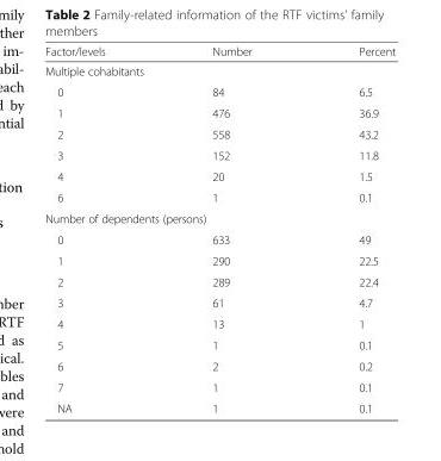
<table><thead><tr><td>Factor/levels</td><td>Number</td><td>Percent</td></tr></thead><tbody><tr><td colspan="3">Multiple cohabitants</td></tr><tr><td>0</td><td>84</td><td>6.5</td></tr><tr><td>1</td><td>476</td><td>36.9</td></tr><tr><td>2</td><td>558</td><td>43.2</td></tr><tr><td>3</td><td>152</td><td>11.8</td></tr><tr><td>4</td><td>20</td><td>1.5</td></tr><tr><td>6</td><td>1</td><td>0.1</td></tr><tr><td colspan="3">Number of dependents (persons)</td></tr><tr><td>0</td><td>633</td><td>49</td></tr><tr><td>1</td><td>290</td><td>22.5</td></tr><tr><td>2</td><td>289</td><td>22.4</td></tr><tr><td>3</td><td>61</td><td>4.7</td></tr><tr><td>4</td><td>13</td><td>1</td></tr><tr><td>5</td><td>1</td><td>0.1</td></tr><tr><td>6</td><td>2</td><td>0.2</td></tr><tr><td>7</td><td>1</td><td>0.1</td></tr><tr><td>NA</td><td>1</td><td>0.1</td></tr></tbody></table>